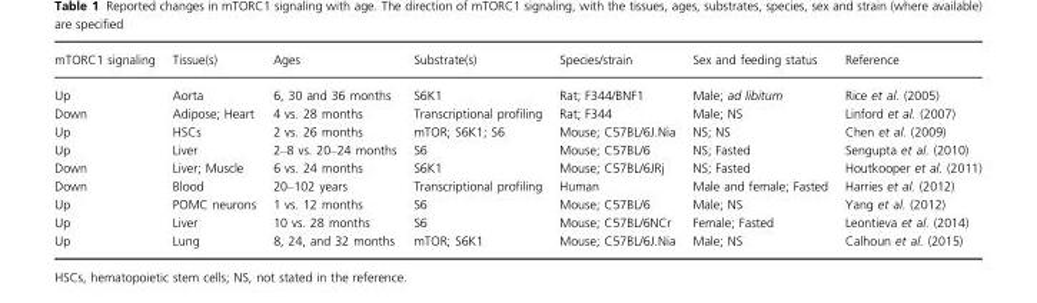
<table><thead><tr><td>mTORC1 signaling</td><td>Tissue(s)</td><td>Ages</td><td>Substrate(s)</td><td>Species/strain</td><td>Sex and feeding status</td><td>Reference</td></tr></thead><tbody><tr><td>Up</td><td>Aorta</td><td>6, 30 and 36 months</td><td>S6K1</td><td>Rat; F344/BNF1</td><td>Male; ad libitum</td><td>Rice et al. (2005)</td></tr><tr><td>Down</td><td>Adipose; Heart</td><td>4 vs. 28 months</td><td>Transcriptional profiling</td><td>Rat; F344</td><td>Male; NS</td><td>Linford et al. (2007)</td></tr><tr><td>Up</td><td>HSCs</td><td>2 vs. 26 months</td><td>mTOR; S6K1; S6</td><td>Mouse; C57BL/6J.Nia</td><td>NS; NS</td><td>Chen et al. (2009)</td></tr><tr><td>Up</td><td>Liver</td><td>2–8 vs. 20–24 months</td><td>S6</td><td>Mouse; C57BL/6</td><td>NS; Fasted</td><td>Sengupta et al. (2010)</td></tr><tr><td>Down</td><td>Liver; Muscle</td><td>6 vs. 24 months</td><td>S6K1</td><td>Mouse; C57BL/6JRj</td><td>NS; Fasted</td><td>Houtkooper et al. (2011)</td></tr><tr><td>Down</td><td>Blood</td><td>20–102 years</td><td>Transcriptional profiling</td><td>Human</td><td>Male and female; Fasted</td><td>Harries et al. (2012)</td></tr><tr><td>Up</td><td>POMC neurons</td><td>1 vs. 12 months</td><td>S6</td><td>Mouse; C57BL/6</td><td>Male; NS</td><td>Yang et al. (2012)</td></tr><tr><td>Up</td><td>Liver</td><td>10 vs. 28 months</td><td>S6</td><td>Mouse; C57BL/6NCr</td><td>Female; Fasted</td><td>Leontieva et al. (2014)</td></tr><tr><td>Up</td><td>Lung</td><td>8, 24, and 32 months</td><td>mTOR; S6K1</td><td>Mouse; C57BL/6J.Nia</td><td>Male; NS</td><td>Calhoun et al. (2015)</td></tr></tbody></table>